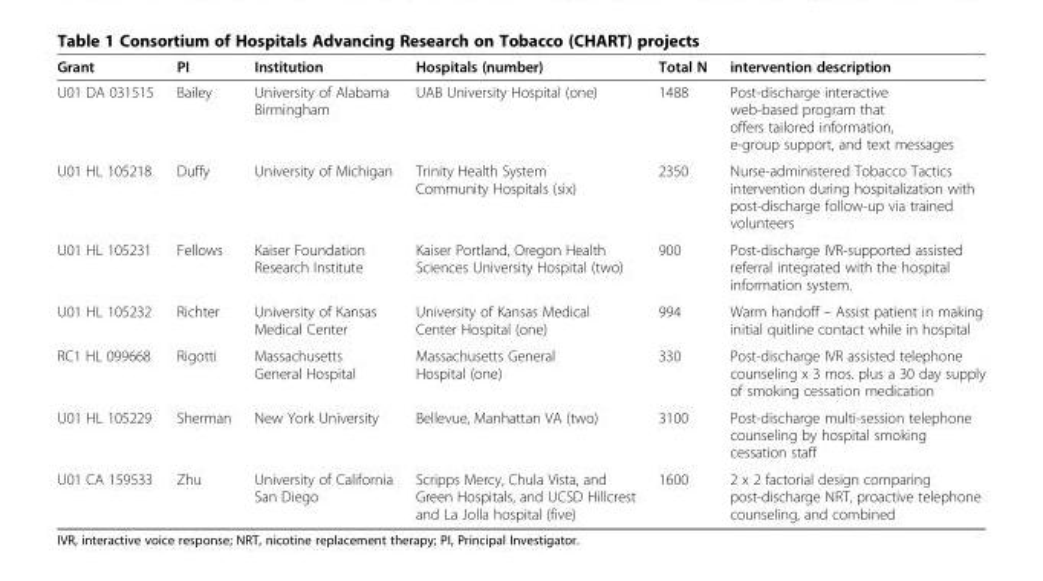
<table><thead><tr><td>Grant</td><td>PI</td><td>Institution</td><td>Hospitals (number)</td><td>Total N</td><td>intervention description</td></tr></thead><tbody><tr><td>U01 DA 031515</td><td>Bailey</td><td>University of Alabama Birmingham</td><td>UAB University Hospital (one)</td><td>1488</td><td>Post-discharge interactive web-based program that offers tailored information, e-group support, and text messages</td></tr><tr><td>U01 HL 105218</td><td>Duffy</td><td>University of Michigan</td><td>Trinity Health System Community Hospitals (six)</td><td>2350</td><td>Nurse-administered Tobacco Tactics intervention during hospitalization with post-discharge follow-up via trained volunteers</td></tr><tr><td>U01 HL 105231</td><td>Fellows</td><td>Kaiser Foundation Research Institute</td><td>Kaiser Portland, Oregon Health Sciences University Hospital (two)</td><td>900</td><td>Post-discharge IVR-supported assisted referral integrated with the hospital information system.</td></tr><tr><td>U01 HL 105232</td><td>Richter</td><td>University of Kansas Medical Center</td><td>University of Kansas Medical Center Hospital (one)</td><td>994</td><td>Warm handoff – Assist patient in making initial quitline contact while in hospital</td></tr><tr><td>RC1 HL 099668</td><td>Rigotti</td><td>Massachusetts General Hospital</td><td>Massachusetts General Hospital (one)</td><td>330</td><td>Post-discharge IVR assisted telephone counseling x 3 mos. plus a 30 day supply of smoking cessation medication</td></tr><tr><td>U01 HL 105229</td><td>Sherman</td><td>New York University</td><td>Bellevue, Manhattan VA (two)</td><td>3100</td><td>Post-discharge multi-session telephone counseling by hospital smoking cessation staff</td></tr><tr><td>U01 CA 159533</td><td>Zhu</td><td>University of California San Diego</td><td>Scripps Mercy, Chula Vista, and Green Hospitals, and UCSD Hillcrest and La Jolla hospital (five)</td><td>1600</td><td>2 x 2 factorial design comparing post-discharge NRT, proactive telephone counseling, and combined</td></tr></tbody></table>